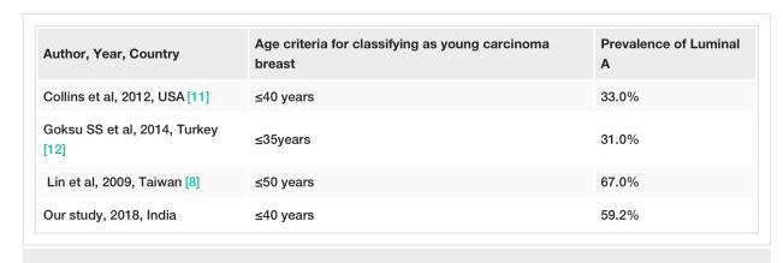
<table><tbody><tr><td>Author, Year, Country</td><td>Age criteria for classifying as young carcinoma breast</td><td>Prevalence of Luminal A</td></tr><tr><td>Collins et al, 2012, USA [11]</td><td>≤40 years</td><td>33.0%</td></tr><tr><td>Goksu SS et al, 2014, Turkey [12]</td><td>≤35years</td><td>31.0%</td></tr><tr><td>Lin et al, 2009, Taiwan [8]</td><td>≤50 years</td><td>67.0%</td></tr><tr><td>Our study, 2018, India</td><td>≤40 years</td><td>59.2%</td></tr></tbody></table>